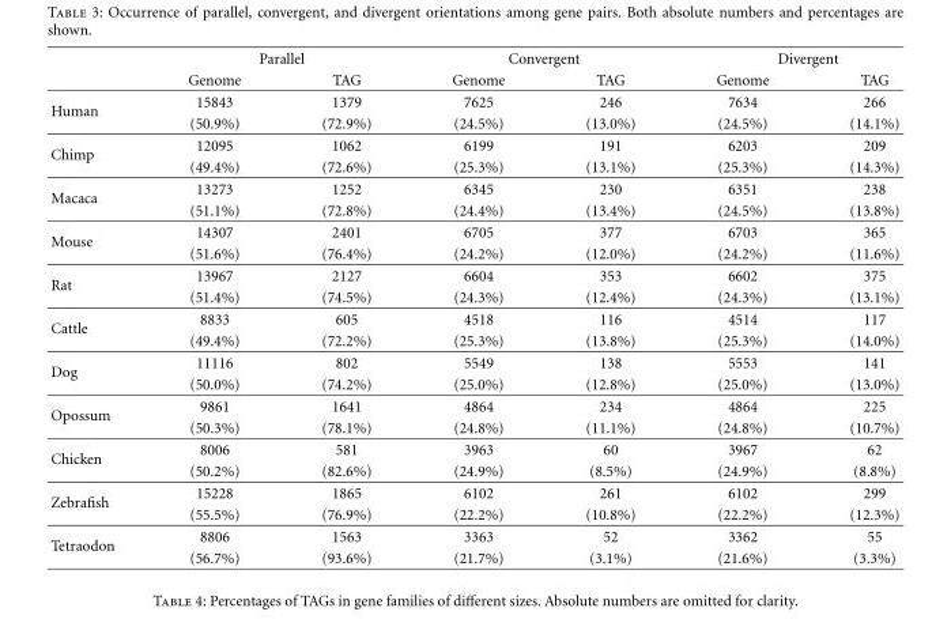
<table><thead><tr><td rowspan="2"></td><td colspan="2">Parallel</td><td colspan="2">Convergent</td><td colspan="2">Divergent</td></tr><tr><td>Genome</td><td>TAG</td><td>Genome</td><td>TAG</td><td>Genome</td><td>TAG</td></tr></thead><tbody><tr><td rowspan="2">Human</td><td>15843</td><td>1379</td><td>7625</td><td>246</td><td>7634</td><td>266</td></tr><tr><td>(50.9%)</td><td>(72.9%)</td><td>(24.5%)</td><td>(13.0%)</td><td>(24.5%)</td><td>(14.1%)</td></tr><tr><td rowspan="2">Chimp</td><td>12095</td><td>1062</td><td>6199</td><td>191</td><td>6203</td><td>209</td></tr><tr><td>(49.4%)</td><td>(72.6%)</td><td>(25.3%)</td><td>(13.1%)</td><td>(25.3%)</td><td>(14.3%)</td></tr><tr><td rowspan="2">Macaca</td><td>13273</td><td>1252</td><td>6345</td><td>230</td><td>6351</td><td>238</td></tr><tr><td>(51.1%)</td><td>(72.8%)</td><td>(24.4%)</td><td>(13.4%)</td><td>(24.5%)</td><td>(13.8%)</td></tr><tr><td rowspan="2">Mouse</td><td>14307</td><td>2401</td><td>6705</td><td>377</td><td>6703</td><td>365</td></tr><tr><td>(51.6%)</td><td>(76.4%)</td><td>(24.2%)</td><td>(12.0%)</td><td>(24.2%)</td><td>(11.6%)</td></tr><tr><td rowspan="2">Rat</td><td>13967</td><td>2127</td><td>6604</td><td>353</td><td>6602</td><td>375</td></tr><tr><td>(51.4%)</td><td>(74.5%)</td><td>(24.3%)</td><td>(12.4%)</td><td>(24.3%)</td><td>(13.1%)</td></tr><tr><td rowspan="2">Cattle</td><td>8833</td><td>605</td><td>4518</td><td>116</td><td>4514</td><td>117</td></tr><tr><td>(49.4%)</td><td>(72.2%)</td><td>(25.3%)</td><td>(13.8%)</td><td>(25.3%)</td><td>(14.0%)</td></tr><tr><td rowspan="2">Dog</td><td>11116</td><td>802</td><td>5549</td><td>138</td><td>5553</td><td>141</td></tr><tr><td>(50.0%)</td><td>(74.2%)</td><td>(25.0%)</td><td>(12.8%)</td><td>(25.0%)</td><td>(13.0%)</td></tr><tr><td rowspan="2">Opossum</td><td>9861</td><td>1641</td><td>4864</td><td>234</td><td>4864</td><td>225</td></tr><tr><td>(50.3%)</td><td>(78.1%)</td><td>(24.8%)</td><td>(11.1%)</td><td>(24.8%)</td><td>(10.7%)</td></tr><tr><td rowspan="2">Chicken</td><td>8006</td><td>581</td><td>3963</td><td>60</td><td>3967</td><td>62</td></tr><tr><td>(50.2%)</td><td>(82.6%)</td><td>(24.9%)</td><td>(8.5%)</td><td>(24.9%)</td><td>(8.8%)</td></tr><tr><td rowspan="2">Zebrafish</td><td>15228</td><td>1865</td><td>6102</td><td>261</td><td>6102</td><td>299</td></tr><tr><td>(55.5%)</td><td>(76.9%)</td><td>(22.2%)</td><td>(10.8%)</td><td>(22.2%)</td><td>(12.3%)</td></tr><tr><td rowspan="2">Tetraodon</td><td>8806</td><td>1563</td><td>3363</td><td>52</td><td>3362</td><td>55</td></tr><tr><td>(56.7%)</td><td>(93.6%)</td><td>(21.7%)</td><td>(3.1%)</td><td>(21.6%)</td><td>(3.3%)</td></tr></tbody></table>